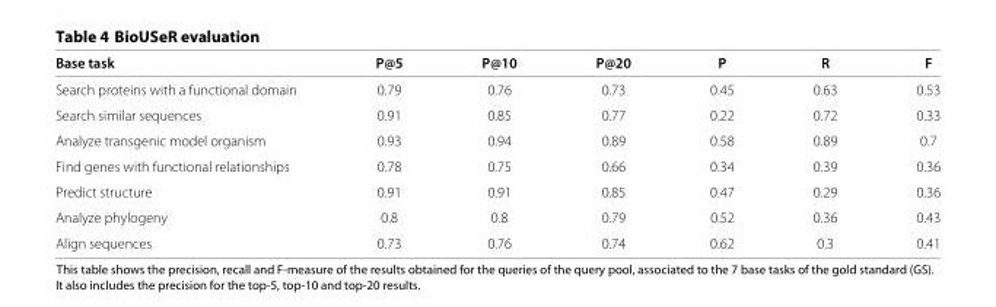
<table><thead><tr><td>Base task</td><td>P@5</td><td>P@10</td><td>P@20</td><td>P</td><td>R</td><td>F</td></tr></thead><tbody><tr><td>Search proteins with a functional domain</td><td>0.79</td><td>0.76</td><td>0.73</td><td>0.45</td><td>0.63</td><td>0.53</td></tr><tr><td>Search similar sequences</td><td>0.91</td><td>0.85</td><td>0.77</td><td>0.22</td><td>0.72</td><td>0.33</td></tr><tr><td>Analyze transgenic model organism</td><td>0.93</td><td>0.94</td><td>0.89</td><td>0.58</td><td>0.89</td><td>0.7</td></tr><tr><td>Find genes with functional relationships</td><td>0.78</td><td>0.75</td><td>0.66</td><td>0.34</td><td>0.39</td><td>0.36</td></tr><tr><td>Predict structure</td><td>0.91</td><td>0.91</td><td>0.85</td><td>0.47</td><td>0.29</td><td>0.36</td></tr><tr><td>Analyze phylogeny</td><td>0.8</td><td>0.8</td><td>0.79</td><td>0.52</td><td>0.36</td><td>0.43</td></tr><tr><td>Align sequences</td><td>0.73</td><td>0.76</td><td>0.74</td><td>0.62</td><td>0.3</td><td>0.41</td></tr></tbody></table>